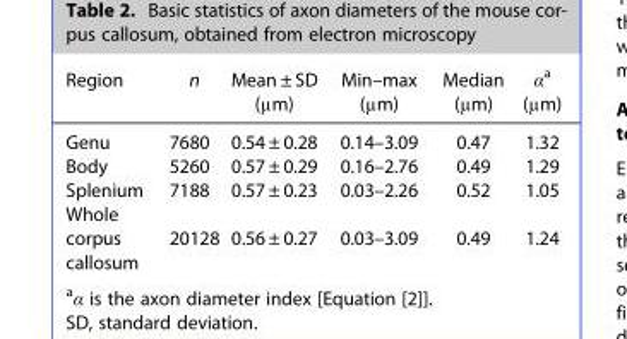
<table><thead><tr><td>Region</td><td>n</td><td>Mean ± SD (μm)</td><td>Min–max (μm)</td><td>Median (μm)</td><td>α<sup>a</sup> (μm)</td></tr></thead><tbody><tr><td>Genu</td><td>7680</td><td>0.54 ± 0.28</td><td>0.14–3.09</td><td>0.47</td><td>1.32</td></tr><tr><td>Body</td><td>5260</td><td>0.57 ± 0.29</td><td>0.16–2.76</td><td>0.49</td><td>1.29</td></tr><tr><td>Splenium</td><td>7188</td><td>0.57 ± 0.23</td><td>0.03–2.26</td><td>0.52</td><td>1.05</td></tr><tr><td>Whole corpus callosum</td><td>20128</td><td>0.56 ± 0.27</td><td>0.03–3.09</td><td>0.49</td><td>1.24</td></tr></tbody></table>